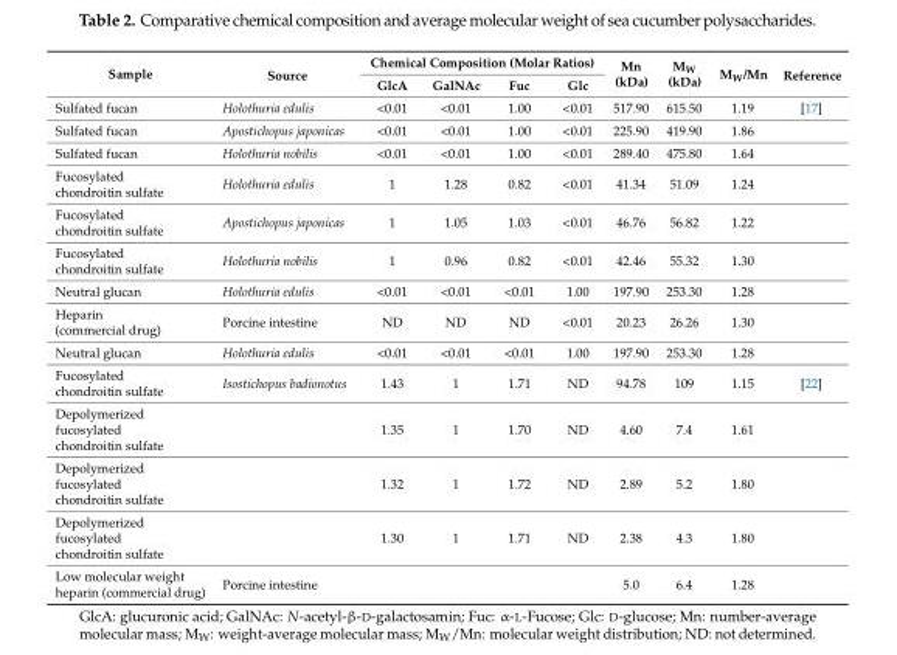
<table><thead><tr><td rowspan="2">Sample</td><td rowspan="2">Source</td><td colspan="4">Chemical Composition (Molar Ratios)</td><td rowspan="2">Mn (kDa)</td><td rowspan="2">M<sub>W</sub> (kDa)</td><td rowspan="2">M<sub>W</sub>/Mn</td><td rowspan="2">Reference</td></tr><tr><td>GlcA</td><td>GalNAc</td><td>Fuc</td><td>Glc</td></tr></thead><tbody><tr><td>Sulfated fucan</td><td>Holothuria edulis</td><td>&lt;0.01</td><td>&lt;0.01</td><td>1.00</td><td>&lt;0.01</td><td>517.90</td><td>615.50</td><td>1.19</td><td>[17]</td></tr><tr><td>Sulfated fucan</td><td>Apostichopus japonicas</td><td>&lt;0.01</td><td>&lt;0.01</td><td>1.00</td><td>&lt;0.01</td><td>225.90</td><td>419.90</td><td>1.86</td><td></td></tr><tr><td>Sulfated fucan</td><td>Holothuria nobilis</td><td>&lt;0.01</td><td>&lt;0.01</td><td>1.00</td><td>&lt;0.01</td><td>289.40</td><td>475.80</td><td>1.64</td><td></td></tr><tr><td>Fucosylated chondroitin sulfate</td><td>Holothuria edulis</td><td>1</td><td>1.28</td><td>0.82</td><td>&lt;0.01</td><td>41.34</td><td>51.09</td><td>1.24</td><td></td></tr><tr><td>Fucosylated chondroitin sulfate</td><td>Apostichopus japonicas</td><td>1</td><td>1.05</td><td>1.03</td><td>&lt;0.01</td><td>46.76</td><td>56.82</td><td>1.22</td><td></td></tr><tr><td>Fucosylated chondroitin sulfate</td><td>Holothuria nobilis</td><td>1</td><td>0.96</td><td>0.82</td><td>&lt;0.01</td><td>42.46</td><td>55.32</td><td>1.30</td><td></td></tr><tr><td>Neutral glucan</td><td>Holothuria edulis</td><td>&lt;0.01</td><td>&lt;0.01</td><td>&lt;0.01</td><td>1.00</td><td>197.90</td><td>253.30</td><td>1.28</td><td></td></tr><tr><td>Heparin (commercial drug)</td><td>Porcine intestine</td><td>ND</td><td>ND</td><td>ND</td><td>&lt;0.01</td><td>20.23</td><td>26.26</td><td>1.30</td><td></td></tr><tr><td>Neutral glucan</td><td>Holothuria edulis</td><td>&lt;0.01</td><td>&lt;0.01</td><td>&lt;0.01</td><td>1.00</td><td>197.90</td><td>253.30</td><td>1.28</td><td></td></tr><tr><td>Fucosylated chondroitin sulfate</td><td>Isostichopus badionotus</td><td>1.43</td><td>1</td><td>1.71</td><td>ND</td><td>94.78</td><td>109</td><td>1.15</td><td>[22]</td></tr><tr><td>Depolymerized fucosylated chondroitin sulfate</td><td></td><td>1.35</td><td>1</td><td>1.70</td><td>ND</td><td>4.60</td><td>7.4</td><td>1.61</td><td></td></tr><tr><td>Depolymerized fucosylated chondroitin sulfate</td><td></td><td>1.32</td><td>1</td><td>1.72</td><td>ND</td><td>2.89</td><td>5.2</td><td>1.80</td><td></td></tr><tr><td>Depolymerized fucosylated chondroitin sulfate</td><td></td><td>1.30</td><td>1</td><td>1.71</td><td>ND</td><td>2.38</td><td>4.3</td><td>1.80</td><td></td></tr><tr><td>Low molecular weight heparin (commercial drug)</td><td>Porcine intestine</td><td></td><td></td><td></td><td></td><td>5.0</td><td>6.4</td><td>1.28</td><td></td></tr></tbody></table>